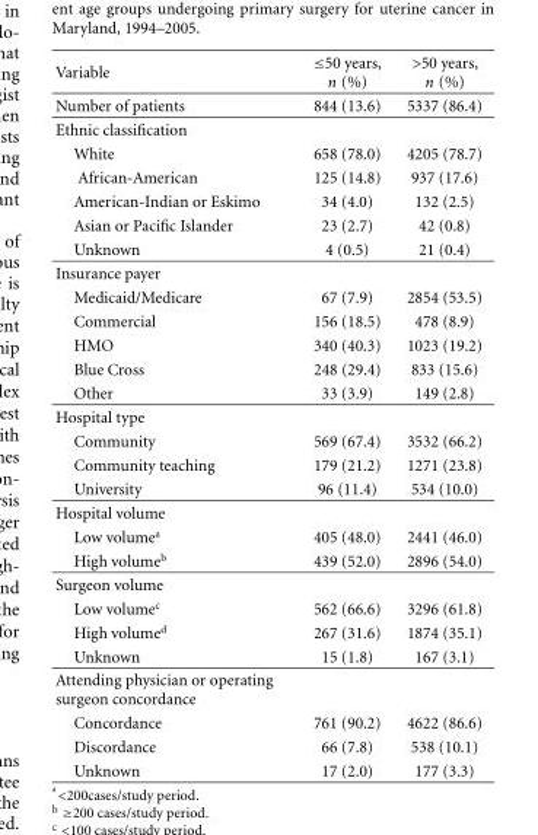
<table><thead><tr><td>Variable</td><td>≤50 years, n (%)</td><td>&gt;50 years, n (%)</td></tr></thead><tbody><tr><td>Number of patients</td><td>844 (13.6)</td><td>5337 (86.4)</td></tr><tr><td colspan="3">Ethnic classification</td></tr><tr><td>White</td><td>658 (78.0)</td><td>4205 (78.7)</td></tr><tr><td>African-American</td><td>125 (14.8)</td><td>937 (17.6)</td></tr><tr><td>American-Indian or Eskimo</td><td>34 (4.0)</td><td>132 (2.5)</td></tr><tr><td>Asian or Pacific Islander</td><td>23 (2.7)</td><td>42 (0.8)</td></tr><tr><td>Unknown</td><td>4 (0.5)</td><td>21 (0.4)</td></tr><tr><td colspan="3">Insurance payer</td></tr><tr><td>Medicaid/Medicare</td><td>67 (7.9)</td><td>2854 (53.5)</td></tr><tr><td>Commercial</td><td>156 (18.5)</td><td>478 (8.9)</td></tr><tr><td>HMO</td><td>340 (40.3)</td><td>1023 (19.2)</td></tr><tr><td>Blue Cross</td><td>248 (29.4)</td><td>833 (15.6)</td></tr><tr><td>Other</td><td>33 (3.9)</td><td>149 (2.8)</td></tr><tr><td colspan="3">Hospital type</td></tr><tr><td>Community</td><td>569 (67.4)</td><td>3532 (66.2)</td></tr><tr><td>Community teaching</td><td>179 (21.2)</td><td>1271 (23.8)</td></tr><tr><td>University</td><td>96 (11.4)</td><td>534 (10.0)</td></tr><tr><td colspan="3">Hospital volume</td></tr><tr><td>Low volume<sup>a</sup></td><td>405 (48.0)</td><td>2441 (46.0)</td></tr><tr><td>High volume<sup>b</sup></td><td>439 (52.0)</td><td>2896 (54.0)</td></tr><tr><td colspan="3">Surgeon volume</td></tr><tr><td>Low volume<sup>c</sup></td><td>562 (66.6)</td><td>3296 (61.8)</td></tr><tr><td>High volume<sup>d</sup></td><td>267 (31.6)</td><td>1874 (35.1)</td></tr><tr><td>Unknown</td><td>15 (1.8)</td><td>167 (3.1)</td></tr><tr><td colspan="3">Attending physician or operating surgeon concordance</td></tr><tr><td>Concordance</td><td>761 (90.2)</td><td>4622 (86.6)</td></tr><tr><td>Discordance</td><td>66 (7.8)</td><td>538 (10.1)</td></tr><tr><td>Unknown</td><td>17 (2.0)</td><td>177 (3.3)</td></tr></tbody></table>